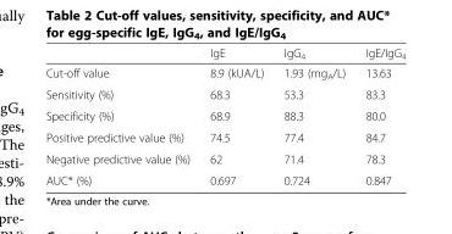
<table><thead><tr><td></td><td>IgE</td><td>IgG<sub>4</sub></td><td>IgE/IgG<sub>4</sub></td></tr></thead><tbody><tr><td>Cut-off value</td><td>8.9 (kUA/L)</td><td>1.93 (mg<sub>A</sub>/L)</td><td>13.63</td></tr><tr><td>Sensitivity (%)</td><td>68.3</td><td>53.3</td><td>83.3</td></tr><tr><td>Specificity (%)</td><td>68.9</td><td>88.3</td><td>80.0</td></tr><tr><td>Positive predictive value (%)</td><td>74.5</td><td>77.4</td><td>84.7</td></tr><tr><td>Negative predictive value (%)</td><td>62</td><td>71.4</td><td>78.3</td></tr><tr><td>AUC* (%)</td><td>0.697</td><td>0.724</td><td>0.847</td></tr></tbody></table>